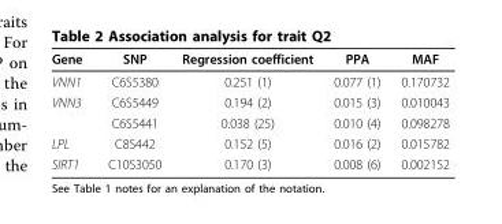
<table><thead><tr><td>Gene</td><td>SNP</td><td>Regression coefficient</td><td>PPA</td><td>MAF</td></tr></thead><tbody><tr><td>VNN1</td><td>C6S5380</td><td>0.251 (1)</td><td>0.077 (1)</td><td>0.170732</td></tr><tr><td rowspan="2">VNN3</td><td>C6S5449</td><td>0.194 (2)</td><td>0.015 (3)</td><td>0.010043</td></tr><tr><td>C6S5441</td><td>0.038 (25)</td><td>0.010 (4)</td><td>0.098278</td></tr><tr><td>LPL</td><td>C8S442</td><td>0.152 (5)</td><td>0.016 (2)</td><td>0.015782</td></tr><tr><td>SIRT1</td><td>C10S3050</td><td>0.170 (3)</td><td>0.008 (6)</td><td>0.002152</td></tr></tbody></table>